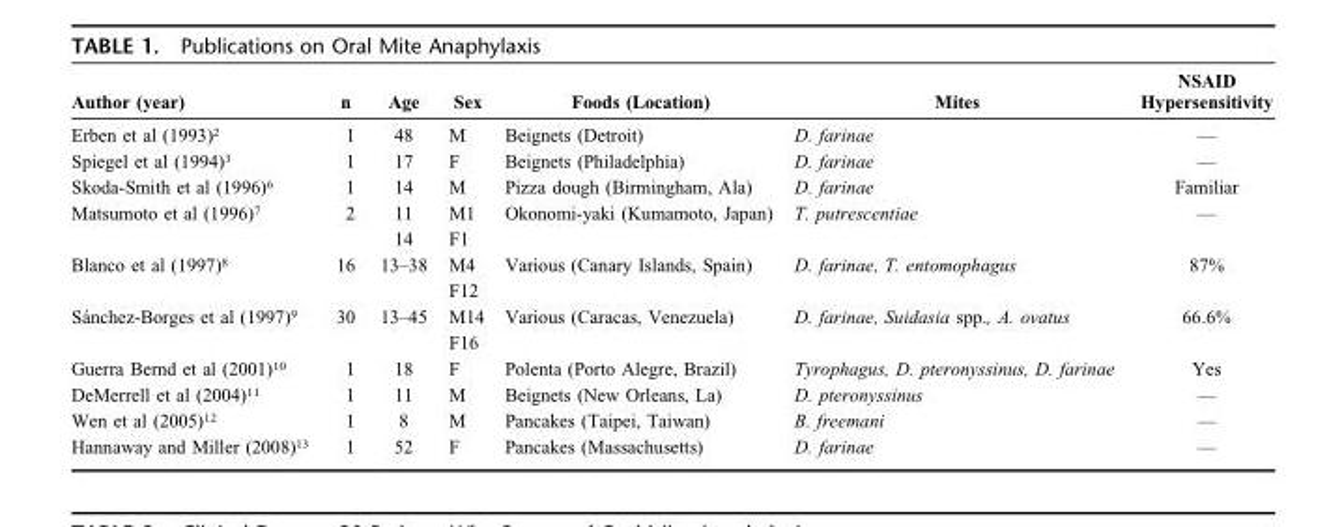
<table><thead><tr><td>Author (year)</td><td>n</td><td>Age</td><td>Sex</td><td>Foods (Location)</td><td>Mites</td><td>NSAID Hypersensitivity</td></tr></thead><tbody><tr><td>Erben et al (1993)2</td><td>1</td><td>48</td><td>M</td><td>Beignets (Detroit)</td><td>D. farinae</td><td>—</td></tr><tr><td>Spiegel et al (1994)3</td><td>1</td><td>17</td><td>F</td><td>Beignets (Philadelphia)</td><td>D. farinae</td><td>—</td></tr><tr><td>Skoda-Smith et al (1996)6</td><td>1</td><td>14</td><td>M</td><td>Pizza dough (Birmingham, Ala)</td><td>D. farinae</td><td>Familiar</td></tr><tr><td rowspan="2">Matsumoto et al (1996)7</td><td>2</td><td>11</td><td>M1</td><td>Okonomi-yaki (Kumamoto, Japan)</td><td>T. putrescentiae</td><td>—</td></tr><tr><td></td><td>14</td><td>F1</td><td></td><td></td><td></td></tr><tr><td rowspan="2">Blanco et al (1997)8</td><td>16</td><td>13–38</td><td>M4</td><td>Various (Canary Islands, Spain)</td><td>D. farinae, T. entomophagus</td><td>87%</td></tr><tr><td></td><td></td><td>F12</td><td></td><td></td><td></td></tr><tr><td rowspan="2">Sa´nchez-Borges et al (1997)9</td><td>30</td><td>13–45</td><td>M14</td><td>Various (Caracas, Venezuela)</td><td>D. farinae, Suidasia spp., A. ovatus</td><td>66.6%</td></tr><tr><td></td><td></td><td>F16</td><td></td><td></td><td></td></tr><tr><td>Guerra Bernd et al (2001)10</td><td>1</td><td>18</td><td>F</td><td>Polenta (Porto Alegre, Brazil)</td><td>Tyrophagus, D. pteronyssinus, D. farinae</td><td>Yes</td></tr><tr><td>DeMerrell et al (2004)11</td><td>1</td><td>11</td><td>M</td><td>Beignets (New Orleans, La)</td><td>D. pteronyssinus</td><td>—</td></tr><tr><td>Wen et al (2005)12</td><td>1</td><td>8</td><td>M</td><td>Pancakes (Taipei, Taiwan)</td><td>B. freemani</td><td>—</td></tr><tr><td>Hannaway and Miller (2008)13</td><td>1</td><td>52</td><td>F</td><td>Pancakes (Massachusetts)</td><td>D. farinae</td><td>—</td></tr></tbody></table>